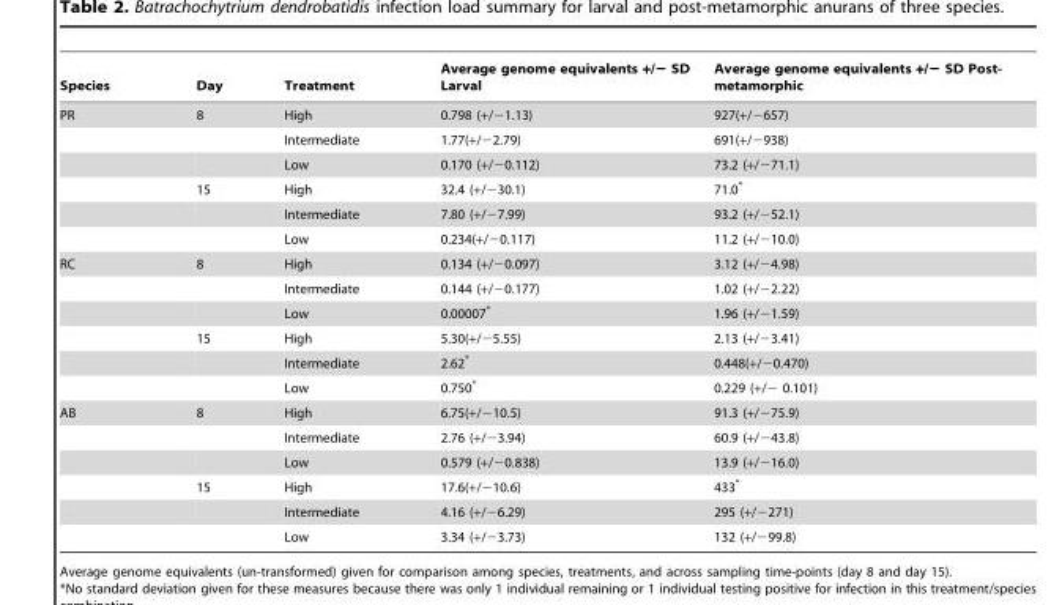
<table><thead><tr><td>Species</td><td>Day</td><td>Treatment</td><td>Average genome equivalents +/− SD Larval</td><td>Average genome equivalents +/− SD Post- metamorphic</td></tr></thead><tbody><tr><td rowspan="6">PR</td><td>8</td><td>High</td><td>0.798 (+/−1.13)</td><td>927(+/−657)</td></tr><tr><td></td><td>Intermediate</td><td>1.77(+/−2.79)</td><td>691(+/−938)</td></tr><tr><td></td><td>Low</td><td>0.170 (+/−0.112)</td><td>73.2 (+/−71.1)</td></tr><tr><td>15</td><td>High</td><td>32.4 (+/−30.1)</td><td>71.0*</td></tr><tr><td></td><td>Intermediate</td><td>7.80 (+/−7.99)</td><td>93.2 (+/−52.1)</td></tr><tr><td></td><td>Low</td><td>0.234(+/−0.117)</td><td>11.2 (+/−10.0)</td></tr><tr><td rowspan="6">RC</td><td>8</td><td>High</td><td>0.134 (+/−0.097)</td><td>3.12 (+/−4.98)</td></tr><tr><td></td><td>Intermediate</td><td>0.144 (+/−0.177)</td><td>1.02 (+/−2.22)</td></tr><tr><td></td><td>Low</td><td>0.00007*</td><td>1.96 (+/−1.59)</td></tr><tr><td>15</td><td>High</td><td>5.30(+/−5.55)</td><td>2.13 (+/−3.41)</td></tr><tr><td></td><td>Intermediate</td><td>2.62*</td><td>0.448(+/−0.470)</td></tr><tr><td></td><td>Low</td><td>0.750*</td><td>0.229 (+/− 0.101)</td></tr><tr><td rowspan="6">AB</td><td>8</td><td>High</td><td>6.75(+/−10.5)</td><td>91.3 (+/−75.9)</td></tr><tr><td></td><td>Intermediate</td><td>2.76 (+/−3.94)</td><td>60.9 (+/−43.8)</td></tr><tr><td></td><td>Low</td><td>0.579 (+/−0.838)</td><td>13.9 (+/−16.0)</td></tr><tr><td>15</td><td>High</td><td>17.6(+/−10.6)</td><td>433*</td></tr><tr><td></td><td>Intermediate</td><td>4.16 (+/−6.29)</td><td>295 (+/−271)</td></tr><tr><td></td><td>Low</td><td>3.34 (+/−3.73)</td><td>132 (+/−99.8)</td></tr></tbody></table>